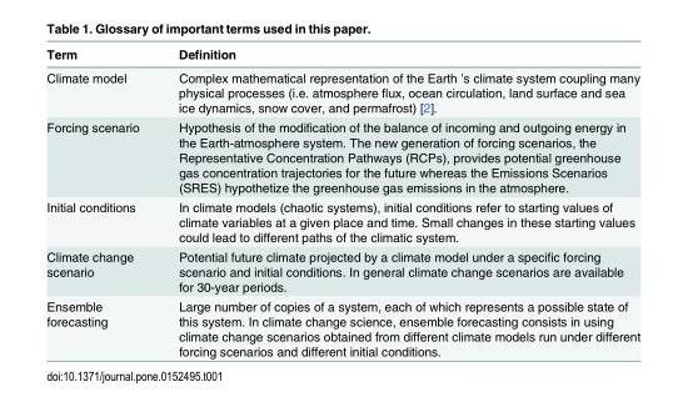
<table><thead><tr><td>Term</td><td>Definition</td></tr></thead><tbody><tr><td>Climate model</td><td>Complex mathematical representation of the Earth ’s climate system coupling many physical processes (i.e. atmosphere flux, ocean circulation, land surface and sea ice dynamics, snow cover, and permafrost) [2].</td></tr><tr><td>Forcing scenario</td><td>Hypothesis of the modification of the balance of incoming and outgoing energy in the Earth-atmosphere system. The new generation of forcing scenarios, the Representative Concentration Pathways (RCPs), provides potential greenhouse gas concentration trajectories for the future whereas the Emissions Scenarios (SRES) hypothetize the greenhouse gas emissions in the atmosphere.</td></tr><tr><td>Initial conditions</td><td>In climate models (chaotic systems), initial conditions refer to starting values of climate variables at a given place and time. Small changes in these starting values could lead to different paths of the climatic system.</td></tr><tr><td>Climate change scenario</td><td>Potential future climate projected by a climate model under a specific forcing scenario and initial conditions. In general climate change scenarios are available for 30-year periods.</td></tr><tr><td>Ensemble forecasting</td><td>Large number of copies of a system, each of which represents a possible state of this system. In climate change science, ensemble forecasting consists in using climate change scenarios obtained from different climate models run under different forcing scenarios and different initial conditions.</td></tr></tbody></table>